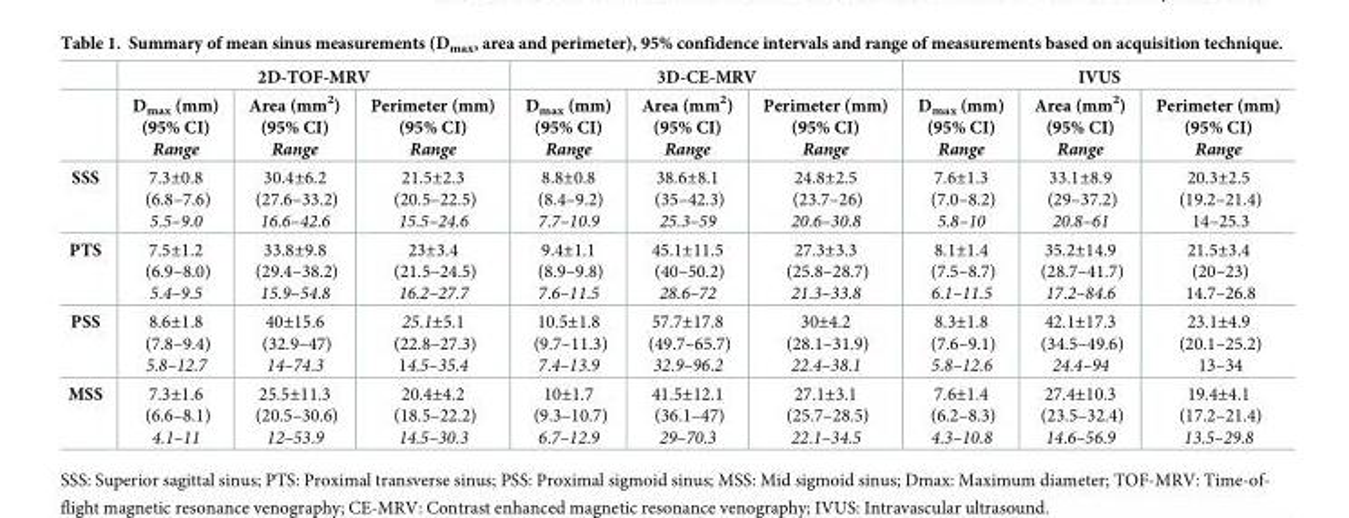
<table><thead><tr><td rowspan="2"></td><td colspan="3">2D-TOF-MRV</td><td colspan="3">3D-CE-MRV</td><td colspan="3">IVUS</td></tr><tr><td>D<sub>max</sub> (mm) (95% CI) Range</td><td>Area (mm<sup>2</sup>) (95% CI) Range</td><td>Perimeter (mm) (95% CI) Range</td><td>D<sub>max</sub> (mm) (95% CI) Range</td><td>Area (mm<sup>2</sup>) (95% CI) Range</td><td>Perimeter (mm) (95% CI) Range</td><td>D<sub>max</sub> (mm) (95% CI) Range</td><td>Area (mm<sup>2</sup>) (95% CI) Range</td><td>Perimeter (mm) (95% CI) Range</td></tr></thead><tbody><tr><td>SSS</td><td>7.3±0.8 (6.8–7.6) 5.5–9.0</td><td>30.4±6.2 (27.6–33.2) 16.6–42.6</td><td>21.5±2.3 (20.5–22.5) 15.5–24.6</td><td>8.8±0.8 (8.4–9.2) 7.7–10.9</td><td>38.6±8.1 (35–42.3) 25.3–59</td><td>24.8±2.5 (23.7–26) 20.6–30.8</td><td>7.6±1.3 (7.0–8.2) 5.8–10</td><td>33.1±8.9 (29–37.2) 20.8–61</td><td>20.3±2.5 (19.2–21.4) 14–25.3</td></tr><tr><td>PTS</td><td>7.5±1.2 (6.9–8.0) 5.4–9.5</td><td>33.8±9.8 (29.4–38.2) 15.9–54.8</td><td>23±3.4 (21.5–24.5) 16.2–27.7</td><td>9.4±1.1 (8.9–9.8) 7.6–11.5</td><td>45.1±11.5 (40–50.2) 28.6–72</td><td>27.3±3.3 (25.8–28.7) 21.3–33.8</td><td>8.1±1.4 (7.5–8.7) 6.1–11.5</td><td>35.2±14.9 (28.7–41.7) 17.2–84.6</td><td>21.5±3.4 (20–23) 14.7–26.8</td></tr><tr><td>PSS</td><td>8.6±1.8 (7.8–9.4) 5.8–12.7</td><td>40±15.6 (32.9–47) 14–74.3</td><td>25.1±5.1 (22.8–27.3) 14.5–35.4</td><td>10.5±1.8 (9.7–11.3) 7.4–13.9</td><td>57.7±17.8 (49.7–65.7) 32.9–96.2</td><td>30±4.2 (28.1–31.9) 22.4–38.1</td><td>8.3±1.8 (7.6–9.1) 5.8–12.6</td><td>42.1±17.3 (34.5–49.6) 24.4–94</td><td>23.1±4.9 (20.1–25.2) 13–34</td></tr><tr><td>MSS</td><td>7.3±1.6 (6.6–8.1) 4.1–11</td><td>25.5±11.3 (20.5–30.6) 12–53.9</td><td>20.4±4.2 (18.5–22.2) 14.5–30.3</td><td>10±1.7 (9.3–10.7) 6.7–12.9</td><td>41.5±12.1 (36.1–47) 29–70.3</td><td>27.1±3.1 (25.7–28.5) 22.1–34.5</td><td>7.6±1.4 (6.2–8.3) 4.3–10.8</td><td>27.4±10.3 (23.5–32.4) 14.6–56.9</td><td>19.4±4.1 (17.2–21.4) 13.5–29.8</td></tr></tbody></table>